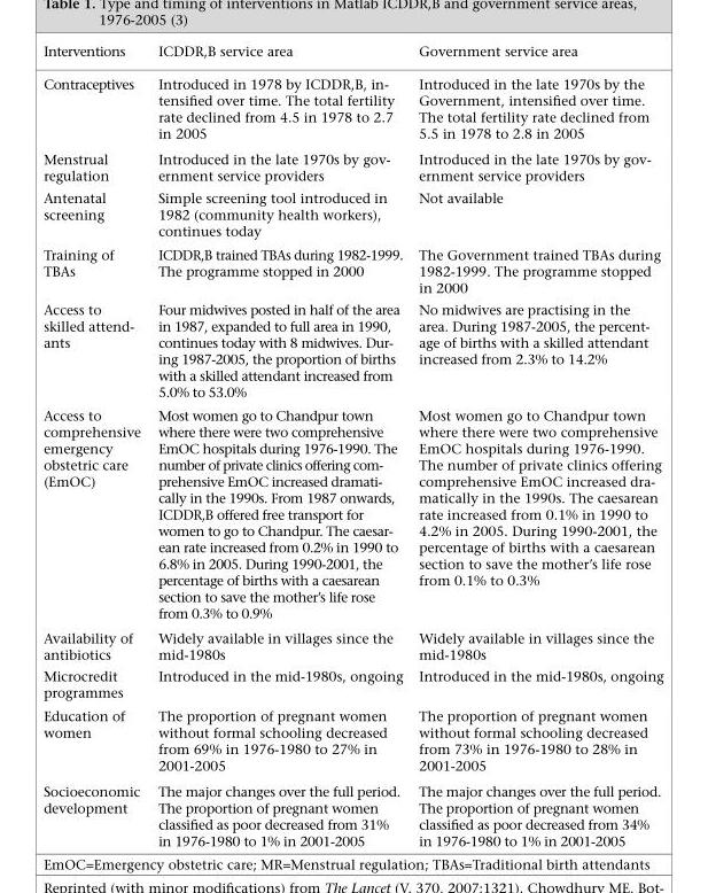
<table><thead><tr><td>Interventions</td><td>ICDDR,B service area</td><td>Government service area</td></tr></thead><tbody><tr><td>Contraceptives</td><td>Introduced in 1978 by ICDDR,B, in- tensified over time. The total fertility rate declined from 4.5 in 1978 to 2.7 in 2005</td><td>Introduced in the late 1970s by the Government, intensified over time. The total fertility rate declined from 5.5 in 1978 to 2.8 in 2005</td></tr><tr><td>Menstrual regulation</td><td>Introduced in the late 1970s by gov- ernment service providers</td><td>Introduced in the late 1970s by gov- ernment service providers</td></tr><tr><td>Antenatal screening</td><td>Simple screening tool introduced in 1982 (community health workers), continues today</td><td>Not available</td></tr><tr><td>Training of TBAs</td><td>ICDDR,B trained TBAs during 1982-1999. The programme stopped in 2000</td><td>The Government trained TBAs during 1982-1999. The programme stopped in 2000</td></tr><tr><td>Access to skilled attend- ants</td><td>Four midwives posted in half of the area in 1987, expanded to full area in 1990, continues today with 8 midwives. Dur- ing 1987-2005, the proportion of births with a skilled attendant increased from 5.0% to 53.0%</td><td>No midwives are practising in the area. During 1987-2005, the percent- age of births with a skilled attendant increased from 2.3% to 14.2%</td></tr><tr><td>Access to comprehensive emergency obstetric care (EmOC)</td><td>Most women go to Chandpur town where there were two comprehensive EmOC hospitals during 1976-1990. The number of private clinics offering com- prehensive EmOC increased dramati- cally in the 1990s. From 1987 onwards, ICDDR,B offered free transport for women to go to Chandpur. The caesar- ean rate increased from 0.2% in 1990 to 6.8% in 2005. During 1990-2001, the percentage of births with a caesarean section to save the mother’s life rose from 0.3% to 0.9%</td><td>Most women go to Chandpur town where there were two comprehensive EmOC hospitals during 1976-1990. The number of private clinics offering comprehensive EmOC increased dra- matically in the 1990s. The caesarean rate increased from 0.1% in 1990 to 4.2% in 2005. During 1990-2001, the percentage of births with a caesarean section to save the mother’s life rose from 0.1% to 0.3%</td></tr><tr><td>Availability of antibiotics</td><td>Widely available in villages since the mid-1980s</td><td>Widely available in villages since the mid-1980s</td></tr><tr><td>Microcredit programmes</td><td>Introduced in the mid-1980s, ongoing</td><td>Introduced in the mid-1980s, ongoing</td></tr><tr><td>Education of women</td><td>The proportion of pregnant women without formal schooling decreased from 69% in 1976-1980 to 27% in 2001-2005</td><td>The proportion of pregnant women without formal schooling decreased from 73% in 1976-1980 to 28% in 2001-2005</td></tr><tr><td>Socioeconomic development</td><td>The major changes over the full period. The proportion of pregnant women classified as poor decreased from 31% in 1976-1980 to 1% in 2001-2005</td><td>The major changes over the full period. The proportion of pregnant women classified as poor decreased from 34% in 1976-1980 to 1% in 2001-2005</td></tr></tbody></table>